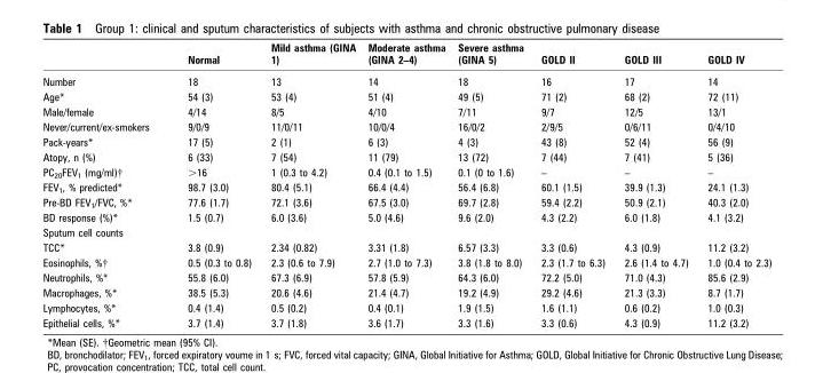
<table><thead><tr><td></td><td>Normal</td><td>Mild asthma (GINA 1)</td><td>Moderate asthma (GINA 2–4)</td><td>Severe asthma (GINA 5)</td><td>GOLD II</td><td>GOLD III</td><td>GOLD IV</td></tr></thead><tbody><tr><td>Number</td><td>18</td><td>13</td><td>14</td><td>18</td><td>16</td><td>17</td><td>14</td></tr><tr><td>Age*</td><td>54 (3)</td><td>53 (4)</td><td>51 (4)</td><td>49 (5)</td><td>71 (2)</td><td>68 (2)</td><td>72 (11)</td></tr><tr><td>Male/female</td><td>4/14</td><td>8/5</td><td>4/10</td><td>7/11</td><td>9/7</td><td>12/5</td><td>13/1</td></tr><tr><td>Never/current/ex-smokers</td><td>9/0/9</td><td>11/0/11</td><td>10/0/4</td><td>16/0/2</td><td>2/9/5</td><td>0/6/11</td><td>0/4/10</td></tr><tr><td>Pack-years*</td><td>17 (5)</td><td>2 (1)</td><td>6 (3)</td><td>4 (3)</td><td>43 (8)</td><td>52 (4)</td><td>56 (9)</td></tr><tr><td>Atopy, n (%)</td><td>6 (33)</td><td>7 (54)</td><td>11 (79)</td><td>13 (72)</td><td>7 (44)</td><td>7 (41)</td><td>5 (36)</td></tr><tr><td>PC<sub>20</sub>FEV<sub>1</sub> (mg/ml)†</td><td>&gt;16</td><td>1 (0.3 to 4.2)</td><td>0.4 (0.1 to 1.5)</td><td>0.1 (0 to 1.6)</td><td>–</td><td>–</td><td>–</td></tr><tr><td>FEV<sub>1</sub>, % predicted*</td><td>98.7 (3.0)</td><td>80.4 (5.1)</td><td>66.4 (4.4)</td><td>56.4 (6.8)</td><td>60.1 (1.5)</td><td>39.9 (1.3)</td><td>24.1 (1.3)</td></tr><tr><td>Pre-BD FEV<sub>1</sub>/FVC, %*</td><td>77.6 (1.7)</td><td>72.1 (3.6)</td><td>67.5 (3.0)</td><td>69.7 (2.8)</td><td>59.4 (2.2)</td><td>50.9 (2.1)</td><td>40.3 (2.0)</td></tr><tr><td>BD response (%)*</td><td>1.5 (0.7)</td><td>6.0 (3.6)</td><td>5.0 (4.6)</td><td>9.6 (2.0)</td><td>4.3 (2.2)</td><td>6.0 (1.8)</td><td>4.1 (3.2)</td></tr><tr><td colspan="8">Sputum cell counts</td></tr><tr><td>TCC*</td><td>3.8 (0.9)</td><td>2.34 (0.82)</td><td>3.31 (1.8)</td><td>6.57 (3.3)</td><td>3.3 (0.6)</td><td>4.3 (0.9)</td><td>11.2 (3.2)</td></tr><tr><td>Eosinophils, %†</td><td>0.5 (0.3 to 0.8)</td><td>2.3 (0.6 to 7.9)</td><td>2.7 (1.0 to 7.3)</td><td>3.8 (1.8 to 8.0)</td><td>2.3 (1.7 to 6.3)</td><td>2.6 (1.4 to 4.7)</td><td>1.0 (0.4 to 2.3)</td></tr><tr><td>Neutrophils, %*</td><td>55.8 (6.0)</td><td>67.3 (6.9)</td><td>57.8 (5.9)</td><td>64.3 (6.0)</td><td>72.2 (5.0)</td><td>71.0 (4.3)</td><td>85.6 (2.9)</td></tr><tr><td>Macrophages, %*</td><td>38.5 (5.3)</td><td>20.6 (4.6)</td><td>21.4 (4.7)</td><td>19.2 (4.9)</td><td>29.2 (4.6)</td><td>21.3 (3.3)</td><td>8.7 (1.7)</td></tr><tr><td>Lymphocytes, %*</td><td>0.4 (1.4)</td><td>0.5 (0.2)</td><td>0.4 (0.1)</td><td>1.9 (1.5)</td><td>1.6 (1.1)</td><td>0.6 (0.2)</td><td>1.0 (0.3)</td></tr><tr><td>Epithelial cells, %*</td><td>3.7 (1.4)</td><td>3.7 (1.8)</td><td>3.6 (1.7)</td><td>3.3 (1.6)</td><td>3.3 (0.6)</td><td>4.3 (0.9)</td><td>11.2 (3.2)</td></tr></tbody></table>